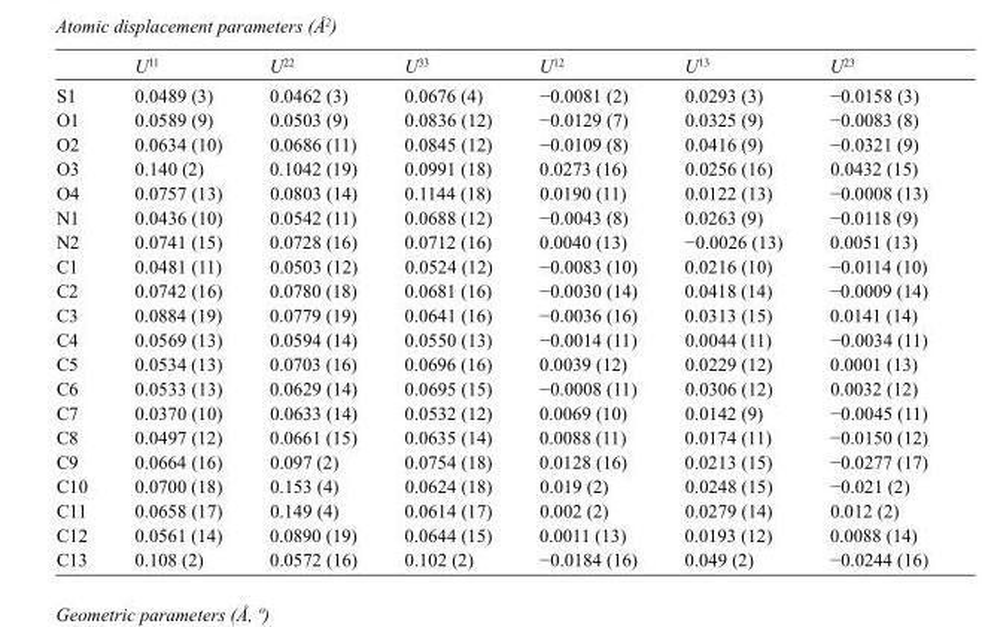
<table><thead><tr><td></td><td>U<sup>11</sup></td><td>U<sup>22</sup></td><td>U<sup>33</sup></td><td>U<sup>12</sup></td><td>U<sup>13</sup></td><td>U<sup>23</sup></td></tr></thead><tbody><tr><td>S1</td><td>0.0489 (3)</td><td>0.0462 (3)</td><td>0.0676 (4)</td><td>−0.0081 (2)</td><td>0.0293 (3)</td><td>−0.0158 (3)</td></tr><tr><td>O1</td><td>0.0589 (9)</td><td>0.0503 (9)</td><td>0.0836 (12)</td><td>−0.0129 (7)</td><td>0.0325 (9)</td><td>−0.0083 (8)</td></tr><tr><td>O2</td><td>0.0634 (10)</td><td>0.0686 (11)</td><td>0.0845 (12)</td><td>−0.0109 (8)</td><td>0.0416 (9)</td><td>−0.0321 (9)</td></tr><tr><td>O3</td><td>0.140 (2)</td><td>0.1042 (19)</td><td>0.0991 (18)</td><td>0.0273 (16)</td><td>0.0256 (16)</td><td>0.0432 (15)</td></tr><tr><td>O4</td><td>0.0757 (13)</td><td>0.0803 (14)</td><td>0.1144 (18)</td><td>0.0190 (11)</td><td>0.0122 (13)</td><td>−0.0008 (13)</td></tr><tr><td>N1</td><td>0.0436 (10)</td><td>0.0542 (11)</td><td>0.0688 (12)</td><td>−0.0043 (8)</td><td>0.0263 (9)</td><td>−0.0118 (9)</td></tr><tr><td>N2</td><td>0.0741 (15)</td><td>0.0728 (16)</td><td>0.0712 (16)</td><td>0.0040 (13)</td><td>−0.0026 (13)</td><td>0.0051 (13)</td></tr><tr><td>C1</td><td>0.0481 (11)</td><td>0.0503 (12)</td><td>0.0524 (12)</td><td>−0.0083 (10)</td><td>0.0216 (10)</td><td>−0.0114 (10)</td></tr><tr><td>C2</td><td>0.0742 (16)</td><td>0.0780 (18)</td><td>0.0681 (16)</td><td>−0.0030 (14)</td><td>0.0418 (14)</td><td>−0.0009 (14)</td></tr><tr><td>C3</td><td>0.0884 (19)</td><td>0.0779 (19)</td><td>0.0641 (16)</td><td>−0.0036 (16)</td><td>0.0313 (15)</td><td>0.0141 (14)</td></tr><tr><td>C4</td><td>0.0569 (13)</td><td>0.0594 (14)</td><td>0.0550 (13)</td><td>−0.0014 (11)</td><td>0.0044 (11)</td><td>−0.0034 (11)</td></tr><tr><td>C5</td><td>0.0534 (13)</td><td>0.0703 (16)</td><td>0.0696 (16)</td><td>0.0039 (12)</td><td>0.0229 (12)</td><td>0.0001 (13)</td></tr><tr><td>C6</td><td>0.0533 (13)</td><td>0.0629 (14)</td><td>0.0695 (15)</td><td>−0.0008 (11)</td><td>0.0306 (12)</td><td>0.0032 (12)</td></tr><tr><td>C7</td><td>0.0370 (10)</td><td>0.0633 (14)</td><td>0.0532 (12)</td><td>0.0069 (10)</td><td>0.0142 (9)</td><td>−0.0045 (11)</td></tr><tr><td>C8</td><td>0.0497 (12)</td><td>0.0661 (15)</td><td>0.0635 (14)</td><td>0.0088 (11)</td><td>0.0174 (11)</td><td>−0.0150 (12)</td></tr><tr><td>C9</td><td>0.0664 (16)</td><td>0.097 (2)</td><td>0.0754 (18)</td><td>0.0128 (16)</td><td>0.0213 (15)</td><td>−0.0277 (17)</td></tr><tr><td>C10</td><td>0.0700 (18)</td><td>0.153 (4)</td><td>0.0624 (18)</td><td>0.019 (2)</td><td>0.0248 (15)</td><td>−0.021 (2)</td></tr><tr><td>C11</td><td>0.0658 (17)</td><td>0.149 (4)</td><td>0.0614 (17)</td><td>0.002 (2)</td><td>0.0279 (14)</td><td>0.012 (2)</td></tr><tr><td>C12</td><td>0.0561 (14)</td><td>0.0890 (19)</td><td>0.0644 (15)</td><td>0.0011 (13)</td><td>0.0193 (12)</td><td>0.0088 (14)</td></tr><tr><td>C13</td><td>0.108 (2)</td><td>0.0572 (16)</td><td>0.102 (2)</td><td>−0.0184 (16)</td><td>0.049 (2)</td><td>−0.0244 (16)</td></tr></tbody></table>